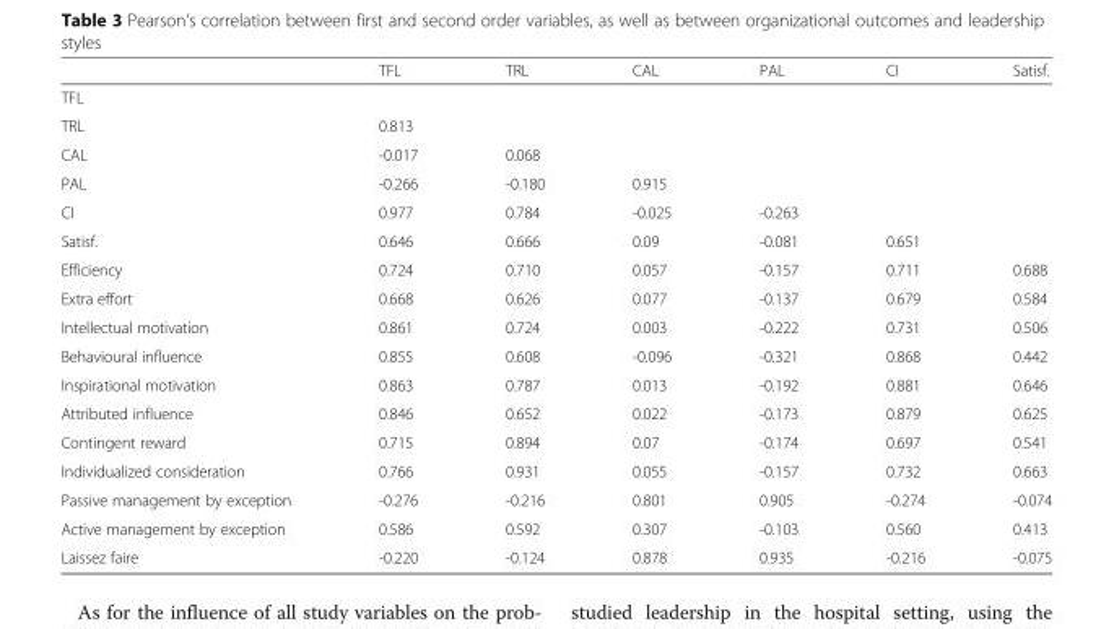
<table><thead><tr><td></td><td>TFL</td><td>TRL</td><td>CAL</td><td>PAL</td><td>CI</td><td>Satisf.</td></tr></thead><tbody><tr><td colspan="7">TFL</td></tr><tr><td>TRL</td><td>0.813</td><td></td><td></td><td></td><td></td><td></td></tr><tr><td>CAL</td><td>-0.017</td><td>0.068</td><td></td><td></td><td></td><td></td></tr><tr><td>PAL</td><td>-0.266</td><td>-0.180</td><td>0.915</td><td></td><td></td><td></td></tr><tr><td>CI</td><td>0.977</td><td>0.784</td><td>-0.025</td><td>-0.263</td><td></td><td></td></tr><tr><td>Satisf.</td><td>0.646</td><td>0.666</td><td>0.09</td><td>-0.081</td><td>0.651</td><td></td></tr><tr><td>Efficiency</td><td>0.724</td><td>0.710</td><td>0.057</td><td>-0.157</td><td>0.711</td><td>0.688</td></tr><tr><td>Extra effort</td><td>0.668</td><td>0.626</td><td>0.077</td><td>-0.137</td><td>0.679</td><td>0.584</td></tr><tr><td>Intellectual motivation</td><td>0.861</td><td>0.724</td><td>0.003</td><td>-0.222</td><td>0.731</td><td>0.506</td></tr><tr><td>Behavioural influence</td><td>0.855</td><td>0.608</td><td>-0.096</td><td>-0.321</td><td>0.868</td><td>0.442</td></tr><tr><td>Inspirational motivation</td><td>0.863</td><td>0.787</td><td>0.013</td><td>-0.192</td><td>0.881</td><td>0.646</td></tr><tr><td>Attributed influence</td><td>0.846</td><td>0.652</td><td>0.022</td><td>-0.173</td><td>0.879</td><td>0.625</td></tr><tr><td>Contingent reward</td><td>0.715</td><td>0.894</td><td>0.07</td><td>-0.174</td><td>0.697</td><td>0.541</td></tr><tr><td>Individualized consideration</td><td>0.766</td><td>0.931</td><td>0.055</td><td>-0.157</td><td>0.732</td><td>0.663</td></tr><tr><td>Passive management by exception</td><td>-0.276</td><td>-0.216</td><td>0.801</td><td>0.905</td><td>-0.274</td><td>-0.074</td></tr><tr><td>Active management by exception</td><td>0.586</td><td>0.592</td><td>0.307</td><td>-0.103</td><td>0.560</td><td>0.413</td></tr><tr><td>Laissez faire</td><td>-0.220</td><td>-0.124</td><td>0.878</td><td>0.935</td><td>-0.216</td><td>-0.075</td></tr></tbody></table>